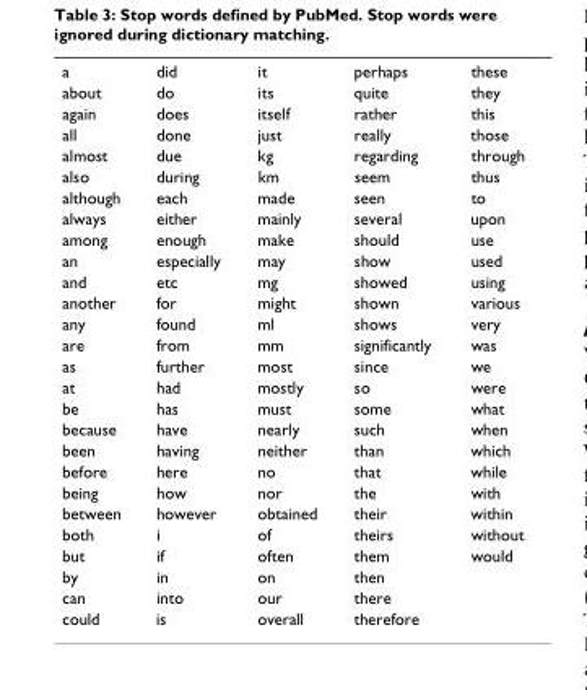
<table><tbody><tr><td>a</td><td>did</td><td>it</td><td>perhaps</td><td>these</td></tr><tr><td>about</td><td>do</td><td>its</td><td>quite</td><td>they</td></tr><tr><td>again</td><td>does</td><td>itself</td><td>rather</td><td>this</td></tr><tr><td>all</td><td>done</td><td>just</td><td>really</td><td>those</td></tr><tr><td>almost</td><td>due</td><td>kg</td><td>regarding</td><td>through</td></tr><tr><td>also</td><td>during</td><td>km</td><td>seem</td><td>thus</td></tr><tr><td>although</td><td>each</td><td>made</td><td>seen</td><td>to</td></tr><tr><td>always</td><td>either</td><td>mainly</td><td>several</td><td>upon</td></tr><tr><td>among</td><td>enough</td><td>make</td><td>should</td><td>use</td></tr><tr><td>an</td><td>especially</td><td>may</td><td>show</td><td>used</td></tr><tr><td>and</td><td>etc</td><td>mg</td><td>showed</td><td>using</td></tr><tr><td>another</td><td>for</td><td>might</td><td>shown</td><td>various</td></tr><tr><td>any</td><td>found</td><td>ml</td><td>shows</td><td>very</td></tr><tr><td>are</td><td>from</td><td>mm</td><td>significantly</td><td>was</td></tr><tr><td>as</td><td>further</td><td>most</td><td>since</td><td>we</td></tr><tr><td>at</td><td>had</td><td>mostly</td><td>so</td><td>were</td></tr><tr><td>be</td><td>has</td><td>must</td><td>some</td><td>what</td></tr><tr><td>because</td><td>have</td><td>nearly</td><td>such</td><td>when</td></tr><tr><td>been</td><td>having</td><td>neither</td><td>than</td><td>which</td></tr><tr><td>before</td><td>here</td><td>no</td><td>that</td><td>while</td></tr><tr><td>being</td><td>how</td><td>nor</td><td>the</td><td>with</td></tr><tr><td>between</td><td>however</td><td>obtained</td><td>their</td><td>within</td></tr><tr><td>both</td><td>i</td><td>of</td><td>theirs</td><td>without</td></tr><tr><td>but</td><td>if</td><td>often</td><td>them</td><td>would</td></tr><tr><td>by</td><td>in</td><td>on</td><td>then</td><td></td></tr><tr><td>can</td><td>into</td><td>our</td><td>there</td><td></td></tr><tr><td>could</td><td>is</td><td>overall</td><td>therefore</td><td></td></tr></tbody></table>